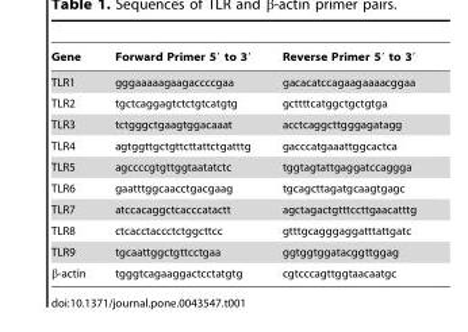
<table><thead><tr><td>Gene</td><td>Forward Primer 5′ to 3′</td><td>Reverse Primer 5′ to 3′</td></tr></thead><tbody><tr><td>TLR1</td><td>gggaaaaagaagaccccgaa</td><td>gacacatccagaagaaaacggaa</td></tr><tr><td>TLR2</td><td>tgctcaggagtctctgtcatgtg</td><td>gcttttcatggctgctgtga</td></tr><tr><td>TLR3</td><td>tctgggctgaagtggacaaat</td><td>acctcaggcttgggagatagg</td></tr><tr><td>TLR4</td><td>agtggttgctgttcttattctgatttg</td><td>gacccatgaaattggcactca</td></tr><tr><td>TLR5</td><td>agccccgtgttggtaatatctc</td><td>tggtagtattgaggatccaggga</td></tr><tr><td>TLR6</td><td>gaatttggcaacctgacgaag</td><td>tgcagcttagatgcaagtgagc</td></tr><tr><td>TLR7</td><td>atccacaggctcacccatactt</td><td>agctagactgtttccttgaacatttg</td></tr><tr><td>TLR8</td><td>ctcacctaccctctggcttcc</td><td>gtttgcagggaggatttattgatc</td></tr><tr><td>TLR9</td><td>tgcaattggctgttcctgaa</td><td>ggtggtggatacggttggag</td></tr><tr><td>β-actin</td><td>tgggtcagaaggactcctatgtg</td><td>cgtcccagttggtaacaatgc</td></tr></tbody></table>